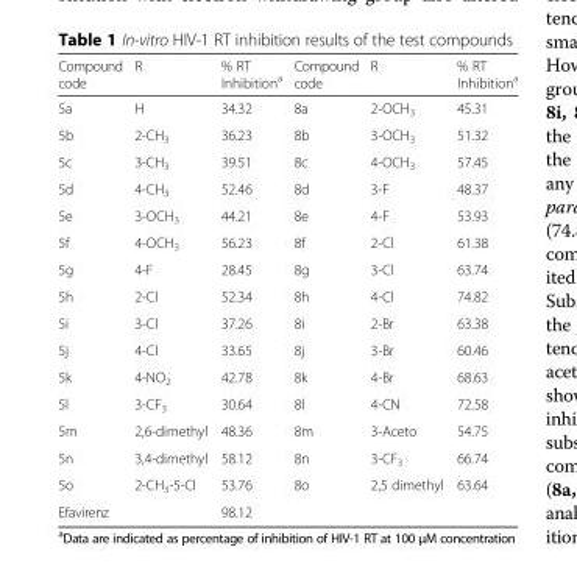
<table><thead><tr><td>Compound code</td><td>R</td><td>% RT Inhibition<sup>a</sup></td><td>Compound code</td><td>R</td><td>% RT Inhibition<sup>a</sup></td></tr></thead><tbody><tr><td>5a</td><td>H</td><td>34.32</td><td>8a</td><td>2-OCH<sub>3</sub></td><td>45.31</td></tr><tr><td>5b</td><td>2-CH<sub>3</sub></td><td>36.23</td><td>8b</td><td>3-OCH<sub>3</sub></td><td>51.32</td></tr><tr><td>5c</td><td>3-CH<sub>3</sub></td><td>39.51</td><td>8c</td><td>4-OCH<sub>3</sub></td><td>57.45</td></tr><tr><td>5d</td><td>4-CH<sub>3</sub></td><td>52.46</td><td>8d</td><td>3-F</td><td>48.37</td></tr><tr><td>5e</td><td>3-OCH<sub>3</sub></td><td>44.21</td><td>8e</td><td>4-F</td><td>53.93</td></tr><tr><td>5f</td><td>4-OCH<sub>3</sub></td><td>56.23</td><td>8f</td><td>2-Cl</td><td>61.38</td></tr><tr><td>5g</td><td>4-F</td><td>28.45</td><td>8g</td><td>3-Cl</td><td>63.74</td></tr><tr><td>5h</td><td>2-Cl</td><td>52.34</td><td>8h</td><td>4-Cl</td><td>74.82</td></tr><tr><td>5i</td><td>3-Cl</td><td>37.26</td><td>8i</td><td>2-Br</td><td>63.38</td></tr><tr><td>5j</td><td>4-Cl</td><td>33.65</td><td>8j</td><td>3-Br</td><td>60.46</td></tr><tr><td>5k</td><td>4-NO<sub>2</sub></td><td>42.78</td><td>8k</td><td>4-Br</td><td>68.63</td></tr><tr><td>5l</td><td>3-CF<sub>3</sub></td><td>30.64</td><td>8l</td><td>4-CN</td><td>72.58</td></tr><tr><td>5m</td><td>2,6-dimethyl</td><td>48.36</td><td>8m</td><td>3-Aceto</td><td>54.75</td></tr><tr><td>5n</td><td>3,4-dimethyl</td><td>58.12</td><td>8n</td><td>3-CF<sub>3</sub></td><td>66.74</td></tr><tr><td>5o</td><td>2-CH<sub>3</sub>-5-Cl</td><td>53.76</td><td>8o</td><td>2,5 dimethyl</td><td>63.64</td></tr><tr><td>Efavirenz</td><td></td><td>98.12</td><td></td><td></td><td></td></tr></tbody></table>